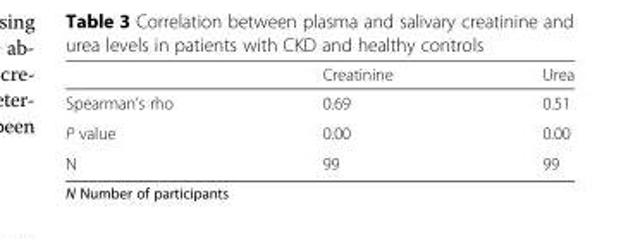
<table><thead><tr><td></td><td>Creatinine</td><td>Urea</td></tr></thead><tbody><tr><td>Spearman’s rho</td><td>0.69</td><td>0.51</td></tr><tr><td>P value</td><td>0.00</td><td>0.00</td></tr><tr><td>N</td><td>99</td><td>99</td></tr></tbody></table>